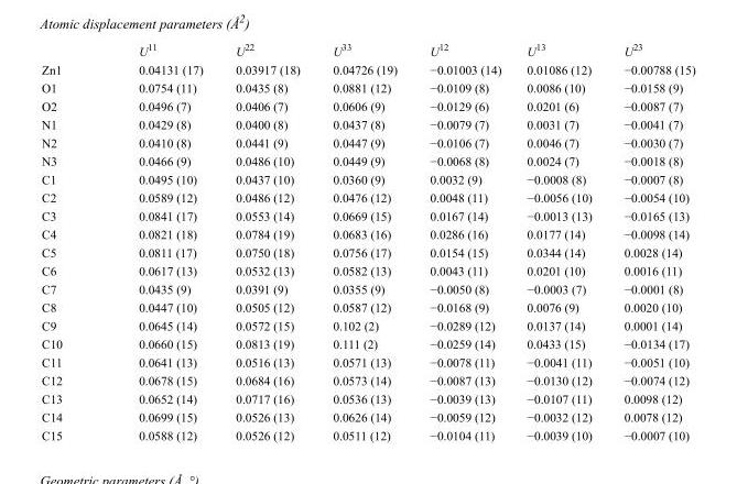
<table><thead><tr><td></td><td>U<sup>11</sup></td><td>U<sup>22</sup></td><td>U<sup>33</sup></td><td>U<sup>12</sup></td><td>U<sup>13</sup></td><td>U<sup>23</sup></td></tr></thead><tbody><tr><td>Zn1</td><td>0.04131 (17)</td><td>0.03917 (18)</td><td>0.04726 (19)</td><td>−0.01003 (14)</td><td>0.01086 (12)</td><td>−0.00788 (15)</td></tr><tr><td>O1</td><td>0.0754 (11)</td><td>0.0435 (8)</td><td>0.0881 (12)</td><td>−0.0109 (8)</td><td>0.0086 (10)</td><td>−0.0158 (9)</td></tr><tr><td>O2</td><td>0.0496 (7)</td><td>0.0406 (7)</td><td>0.0606 (9)</td><td>−0.0129 (6)</td><td>0.0201 (6)</td><td>−0.0087 (7)</td></tr><tr><td>N1</td><td>0.0429 (8)</td><td>0.0400 (8)</td><td>0.0437 (8)</td><td>−0.0079 (7)</td><td>0.0031 (7)</td><td>−0.0041 (7)</td></tr><tr><td>N2</td><td>0.0410 (8)</td><td>0.0441 (9)</td><td>0.0447 (9)</td><td>−0.0106 (7)</td><td>0.0046 (7)</td><td>−0.0030 (7)</td></tr><tr><td>N3</td><td>0.0466 (9)</td><td>0.0486 (10)</td><td>0.0449 (9)</td><td>−0.0068 (8)</td><td>0.0024 (7)</td><td>−0.0018 (8)</td></tr><tr><td>C1</td><td>0.0495 (10)</td><td>0.0437 (10)</td><td>0.0360 (9)</td><td>0.0032 (9)</td><td>−0.0008 (8)</td><td>−0.0007 (8)</td></tr><tr><td>C2</td><td>0.0589 (12)</td><td>0.0486 (12)</td><td>0.0476 (12)</td><td>0.0048 (11)</td><td>−0.0056 (10)</td><td>−0.0054 (10)</td></tr><tr><td>C3</td><td>0.0841 (17)</td><td>0.0553 (14)</td><td>0.0669 (15)</td><td>0.0167 (14)</td><td>−0.0013 (13)</td><td>−0.0165 (13)</td></tr><tr><td>C4</td><td>0.0821 (18)</td><td>0.0784 (19)</td><td>0.0683 (16)</td><td>0.0286 (16)</td><td>0.0177 (14)</td><td>−0.0098 (14)</td></tr><tr><td>C5</td><td>0.0811 (17)</td><td>0.0750 (18)</td><td>0.0756 (17)</td><td>0.0154 (15)</td><td>0.0344 (14)</td><td>0.0028 (14)</td></tr><tr><td>C6</td><td>0.0617 (13)</td><td>0.0532 (13)</td><td>0.0582 (13)</td><td>0.0043 (11)</td><td>0.0201 (10)</td><td>0.0016 (11)</td></tr><tr><td>C7</td><td>0.0435 (9)</td><td>0.0391 (9)</td><td>0.0355 (9)</td><td>−0.0050 (8)</td><td>−0.0003 (7)</td><td>−0.0001 (8)</td></tr><tr><td>C8</td><td>0.0447 (10)</td><td>0.0505 (12)</td><td>0.0587 (12)</td><td>−0.0168 (9)</td><td>0.0076 (9)</td><td>0.0020 (10)</td></tr><tr><td>C9</td><td>0.0645 (14)</td><td>0.0572 (15)</td><td>0.102 (2)</td><td>−0.0289 (12)</td><td>0.0137 (14)</td><td>0.0001 (14)</td></tr><tr><td>C10</td><td>0.0660 (15)</td><td>0.0813 (19)</td><td>0.111 (2)</td><td>−0.0259 (14)</td><td>0.0433 (15)</td><td>−0.0134 (17)</td></tr><tr><td>C11</td><td>0.0641 (13)</td><td>0.0516 (13)</td><td>0.0571 (13)</td><td>−0.0078 (11)</td><td>−0.0041 (11)</td><td>−0.0051 (10)</td></tr><tr><td>C12</td><td>0.0678 (15)</td><td>0.0684 (16)</td><td>0.0573 (14)</td><td>−0.0087 (13)</td><td>−0.0130 (12)</td><td>−0.0074 (12)</td></tr><tr><td>C13</td><td>0.0652 (14)</td><td>0.0717 (16)</td><td>0.0536 (13)</td><td>−0.0039 (13)</td><td>−0.0107 (11)</td><td>0.0098 (12)</td></tr><tr><td>C14</td><td>0.0699 (15)</td><td>0.0526 (13)</td><td>0.0626 (14)</td><td>−0.0059 (12)</td><td>−0.0032 (12)</td><td>0.0078 (12)</td></tr><tr><td>C15</td><td>0.0588 (12)</td><td>0.0526 (12)</td><td>0.0511 (12)</td><td>−0.0104 (11)</td><td>−0.0039 (10)</td><td>−0.0007 (10)</td></tr></tbody></table>